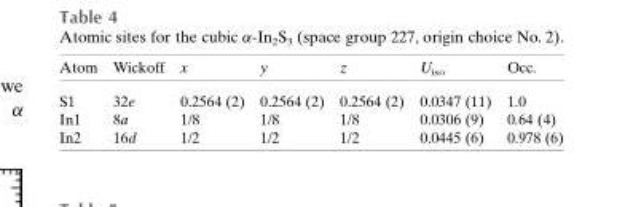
<table><thead><tr><td>Atom</td><td>Wickoff</td><td>x</td><td>y</td><td>z</td><td>U<sub>iso</sub></td><td>Occ.</td></tr></thead><tbody><tr><td>S1</td><td>32e</td><td>0.2564 (2)</td><td>0.2564 (2)</td><td>0.2564 (2)</td><td>0.0347 (11)</td><td>1.0</td></tr><tr><td>In1</td><td>8a</td><td>1/8</td><td>1/8</td><td>1/8</td><td>0.0306 (9)</td><td>0.64 (4)</td></tr><tr><td>In2</td><td>16d</td><td>1/2</td><td>1/2</td><td>1/2</td><td>0.0445 (6)</td><td>0.978 (6)</td></tr></tbody></table>